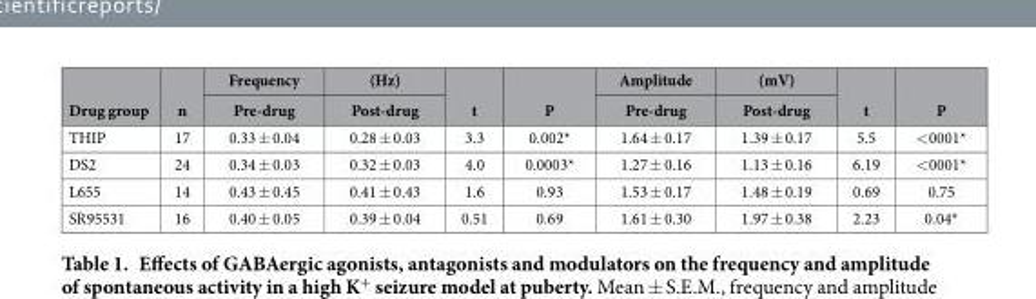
<table><thead><tr><td rowspan="2">Drug group</td><td rowspan="2">n</td><td rowspan="2">Frequency Pre-drug</td><td rowspan="2">(Hz) Post-drug</td><td rowspan="2">t</td><td rowspan="2">P</td><td rowspan="2">Amplitude Pre-drug</td><td rowspan="2">(mV) Post-drug</td><td rowspan="2">t</td><td rowspan="2">P</td></tr><tr></tr></thead><tbody><tr><td>THIP</td><td>17</td><td>0.33 ± 0.04</td><td>0.28 ± 0.03</td><td>3.3</td><td>0.002*</td><td>1.64 ± 0.17</td><td>1.39 ± 0.17</td><td>5.5</td><td>&lt; 0001*</td></tr><tr><td>DS2</td><td>24</td><td>0.34 ± 0.03</td><td>0.32 ± 0.03</td><td>4.0</td><td>0.0003*</td><td>1.27 ± 0.16</td><td>1.13 ± 0.16</td><td>6.19</td><td>&lt; 0001*</td></tr><tr><td>L655</td><td>14</td><td>0.43 ± 0.45</td><td>0.41 ± 0.43</td><td>1.6</td><td>0.93</td><td>1.53 ± 0.17</td><td>1.48 ± 0.19</td><td>0.69</td><td>0.75</td></tr><tr><td>SR95531</td><td>16</td><td>0.40 ± 0.05</td><td>0.39 ± 0.04</td><td>0.51</td><td>0.69</td><td>1.61 ± 0.30</td><td>1.97 ± 0.38</td><td>2.23</td><td>0.04*</td></tr></tbody></table>